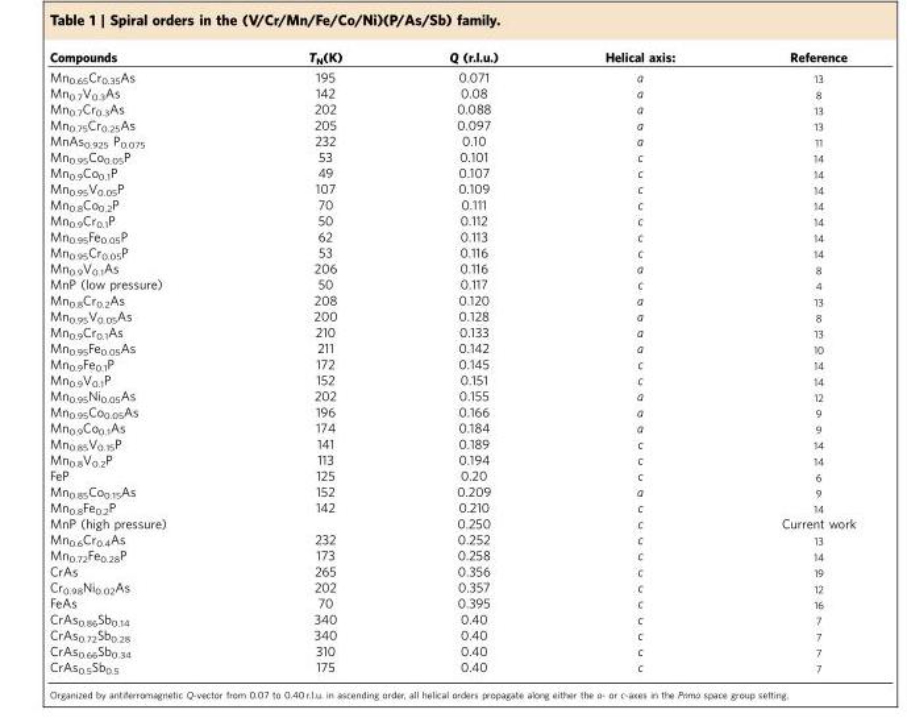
<table><thead><tr><td>Compounds</td><td>T<sub>N</sub>(K)</td><td>Q (r.l.u.)</td><td>Helical axis:</td><td>Reference</td></tr></thead><tbody><tr><td>Mn<sub>0.65</sub>Cr<sub>0.35</sub>As</td><td>195</td><td>0.071</td><td>a</td><td>13</td></tr><tr><td>Mn<sub>0.7</sub>V<sub>0.3</sub>As</td><td>142</td><td>0.08</td><td>a</td><td>8</td></tr><tr><td>Mn<sub>0.7</sub>Cr<sub>0.3</sub>As</td><td>202</td><td>0.088</td><td>a</td><td>13</td></tr><tr><td>Mn<sub>0.75</sub>Cr<sub>0.25</sub>As</td><td>205</td><td>0.097</td><td>a</td><td>13</td></tr><tr><td>MnAs<sub>0.925</sub> P<sub>0.075</sub></td><td>232</td><td>0.10</td><td>a</td><td>11</td></tr><tr><td>Mn<sub>0.95</sub>Co<sub>0.05</sub>P</td><td>53</td><td>0.101</td><td>c</td><td>14</td></tr><tr><td>Mn<sub>0.9</sub>Co<sub>0.1</sub>P</td><td>49</td><td>0.107</td><td>c</td><td>14</td></tr><tr><td>Mn<sub>0.95</sub>V<sub>0.05</sub>P</td><td>107</td><td>0.109</td><td>c</td><td>14</td></tr><tr><td>Mn<sub>0.8</sub>Co<sub>0.2</sub>P</td><td>70</td><td>0.111</td><td>c</td><td>14</td></tr><tr><td>Mn<sub>0.9</sub>Cr<sub>0.1</sub>P</td><td>50</td><td>0.112</td><td>c</td><td>14</td></tr><tr><td>Mn<sub>0.95</sub>Fe<sub>0.05</sub>P</td><td>62</td><td>0.113</td><td>c</td><td>14</td></tr><tr><td>Mn<sub>0.95</sub>Cr<sub>0.05</sub>P</td><td>53</td><td>0.116</td><td>c</td><td>14</td></tr><tr><td>Mn<sub>0.9</sub>V<sub>0.1</sub>As</td><td>206</td><td>0.116</td><td>a</td><td>8</td></tr><tr><td>MnP (low pressure)</td><td>50</td><td>0.117</td><td>c</td><td>4</td></tr><tr><td>Mn<sub>0.8</sub>Cr<sub>0.2</sub>As</td><td>208</td><td>0.120</td><td>a</td><td>13</td></tr><tr><td>Mn<sub>0.95</sub>V<sub>0.05</sub>As</td><td>200</td><td>0.128</td><td>a</td><td>8</td></tr><tr><td>Mn<sub>0.9</sub>Cr<sub>0.1</sub>As</td><td>210</td><td>0.133</td><td>a</td><td>13</td></tr><tr><td>Mn<sub>0.95</sub>Fe<sub>0.05</sub>As</td><td>211</td><td>0.142</td><td>a</td><td>10</td></tr><tr><td>Mn<sub>0.9</sub>Fe<sub>0.1</sub>P</td><td>172</td><td>0.145</td><td>c</td><td>14</td></tr><tr><td>Mn<sub>0.9</sub>V<sub>0.1</sub>P</td><td>152</td><td>0.151</td><td>c</td><td>14</td></tr><tr><td>Mn<sub>0.95</sub>Ni<sub>0.05</sub>As</td><td>202</td><td>0.155</td><td>a</td><td>12</td></tr><tr><td>Mn<sub>0.95</sub>Co<sub>0.05</sub>As</td><td>196</td><td>0.166</td><td>a</td><td>9</td></tr><tr><td>Mn<sub>0.9</sub>Co<sub>0.1</sub>As</td><td>174</td><td>0.184</td><td>a</td><td>9</td></tr><tr><td>Mn<sub>0.85</sub>V<sub>0.15</sub>P</td><td>141</td><td>0.189</td><td>c</td><td>14</td></tr><tr><td>Mn<sub>0.8</sub>V<sub>0.2</sub>P</td><td>113</td><td>0.194</td><td>c</td><td>14</td></tr><tr><td>FeP</td><td>125</td><td>0.20</td><td>c</td><td>6</td></tr><tr><td>Mn<sub>0.85</sub>Co<sub>0.15</sub>As</td><td>152</td><td>0.209</td><td>a</td><td>9</td></tr><tr><td>Mn<sub>0.8</sub>Fe<sub>0.2</sub>P</td><td>142</td><td>0.210</td><td>c</td><td>14</td></tr><tr><td>MnP (high pressure)</td><td></td><td>0.250</td><td>c</td><td>Current work</td></tr><tr><td>Mn<sub>0.6</sub>Cr<sub>0.4</sub>As</td><td>232</td><td>0.252</td><td>c</td><td>13</td></tr><tr><td>Mn<sub>0.72</sub>Fe<sub>0.28</sub>P</td><td>173</td><td>0.258</td><td>c</td><td>14</td></tr><tr><td>CrAs</td><td>265</td><td>0.356</td><td>c</td><td>19</td></tr><tr><td>Cr<sub>0.98</sub>Ni<sub>0.02</sub>As</td><td>202</td><td>0.357</td><td>c</td><td>12</td></tr><tr><td>FeAs</td><td>70</td><td>0.395</td><td>c</td><td>16</td></tr><tr><td>CrAs<sub>0.86</sub>Sb<sub>0.14</sub></td><td>340</td><td>0.40</td><td>c</td><td>7</td></tr><tr><td>CrAs<sub>0.72</sub>Sb<sub>0.28</sub></td><td>340</td><td>0.40</td><td>c</td><td>7</td></tr><tr><td>CrAs<sub>0.66</sub>Sb<sub>0.34</sub></td><td>310</td><td>0.40</td><td>c</td><td>7</td></tr><tr><td>CrAs<sub>0.5</sub>Sb<sub>0.5</sub></td><td>175</td><td>0.40</td><td>c</td><td>7</td></tr></tbody></table>